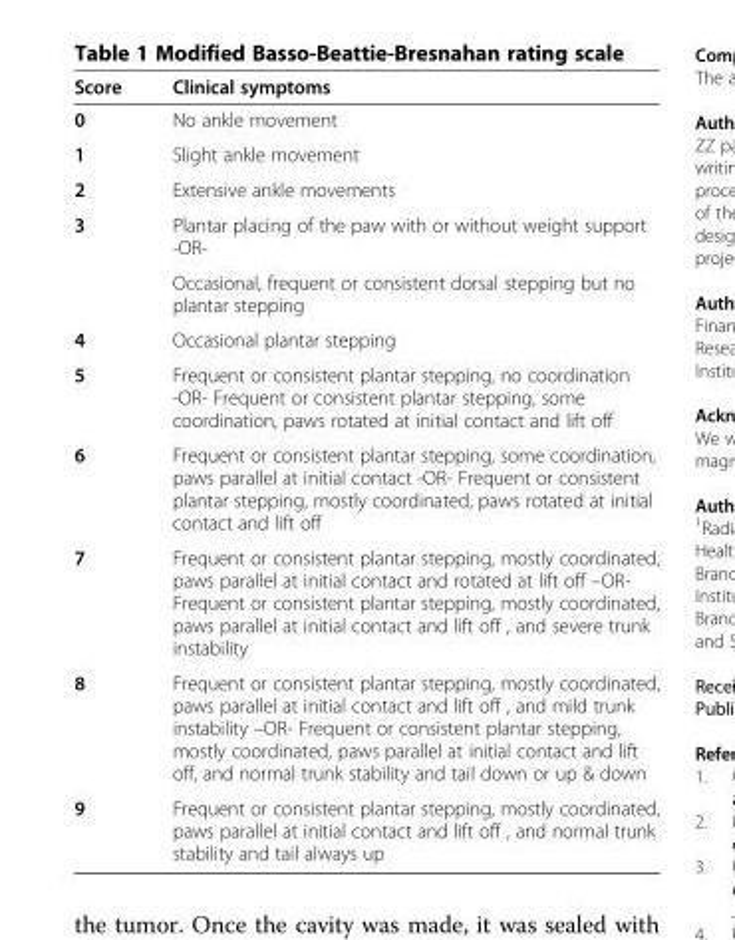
<table><thead><tr><td>Score</td><td>Clinical symptoms</td></tr></thead><tbody><tr><td>0</td><td>No ankle movement</td></tr><tr><td>1</td><td>Slight ankle movement</td></tr><tr><td>2</td><td>Extensive ankle movements</td></tr><tr><td rowspan="2">3</td><td>Plantar placing of the paw with or without weight support -OR-</td></tr><tr><td>Occasional, frequent or consistent dorsal stepping but no plantar stepping</td></tr><tr><td>4</td><td>Occasional plantar stepping</td></tr><tr><td>5</td><td>Frequent or consistent plantar stepping, no coordination -OR- Frequent or consistent plantar stepping, some coordination, paws rotated at initial contact and lift off</td></tr><tr><td>6</td><td>Frequent or consistent plantar stepping, some coordination, paws parallel at initial contact -OR- Frequent or consistent plantar stepping, mostly coordinated, paws rotated at initial contact and lift off</td></tr><tr><td>7</td><td>Frequent or consistent plantar stepping, mostly coordinated, paws parallel at initial contact and rotated at lift off –OR- Frequent or consistent plantar stepping, mostly coordinated, paws parallel at initial contact and lift off , and severe trunk instability</td></tr><tr><td>8</td><td>Frequent or consistent plantar stepping, mostly coordinated, paws parallel at initial contact and lift off , and mild trunk instability –OR- Frequent or consistent plantar stepping, mostly coordinated, paws parallel at initial contact and lift off, and normal trunk stability and tail down or up &amp; down</td></tr><tr><td>9</td><td>Frequent or consistent plantar stepping, mostly coordinated, paws parallel at initial contact and lift off , and normal trunk stability and tail always up</td></tr></tbody></table>